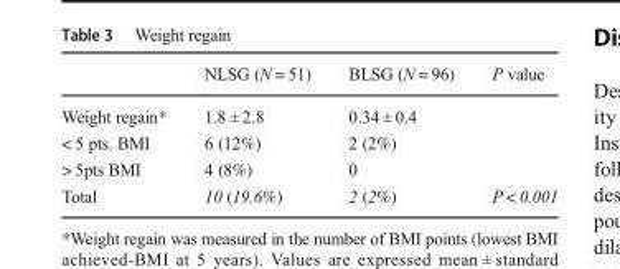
<table><thead><tr><td></td><td>NLSG (N = 51)</td><td>BLSG (N = 96)</td><td>P value</td></tr></thead><tbody><tr><td>Weight regain*</td><td>1.8 ± 2.8</td><td>0.34 ± 0.4</td><td></td></tr><tr><td>&lt; 5 pts. BMI</td><td>6 (12%)</td><td>2 (2%)</td><td></td></tr><tr><td>&gt; 5pts BMI</td><td>4 (8%)</td><td>0</td><td></td></tr><tr><td>Total</td><td>10 (19.6%)</td><td>2 (2%)</td><td>P &lt; 0.001</td></tr></tbody></table>